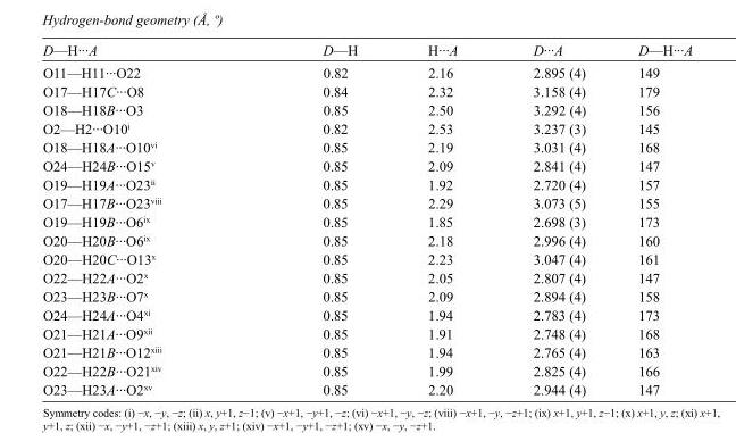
<table><tbody><tr><td>D—H···A</td><td>D—H</td><td>H···A</td><td>D···A</td><td>D—H···A</td></tr><tr><td>O11—H11···O22</td><td>0.82</td><td>2.16</td><td>2.895 (4)</td><td>149</td></tr><tr><td>O17—H17C···O8</td><td>0.84</td><td>2.32</td><td>3.158 (4)</td><td>179</td></tr><tr><td>O18—H18B···O3</td><td>0.85</td><td>2.50</td><td>3.292 (4)</td><td>156</td></tr><tr><td>O2—H2···O10<sup>i</sup></td><td>0.82</td><td>2.53</td><td>3.237 (3)</td><td>145</td></tr><tr><td>O18—H18A···O10<sup>vi</sup></td><td>0.85</td><td>2.19</td><td>3.031 (4)</td><td>168</td></tr><tr><td>O24—H24B···O15<sup>v</sup></td><td>0.85</td><td>2.09</td><td>2.841 (4)</td><td>147</td></tr><tr><td>O19—H19A···O23<sup>ii</sup></td><td>0.85</td><td>1.92</td><td>2.720 (4)</td><td>157</td></tr><tr><td>O17—H17B···O23<sup>viii</sup></td><td>0.85</td><td>2.29</td><td>3.073 (5)</td><td>155</td></tr><tr><td>O19—H19B···O6<sup>ix</sup></td><td>0.85</td><td>1.85</td><td>2.698 (3)</td><td>173</td></tr><tr><td>O20—H20B···O6<sup>ix</sup></td><td>0.85</td><td>2.18</td><td>2.996 (4)</td><td>160</td></tr><tr><td>O20—H20C···O13<sup>x</sup></td><td>0.85</td><td>2.23</td><td>3.047 (4)</td><td>161</td></tr><tr><td>O22—H22A···O2<sup>x</sup></td><td>0.85</td><td>2.05</td><td>2.807 (4)</td><td>147</td></tr><tr><td>O23—H23B···O7<sup>x</sup></td><td>0.85</td><td>2.09</td><td>2.894 (4)</td><td>158</td></tr><tr><td>O24—H24A···O4<sup>xi</sup></td><td>0.85</td><td>1.94</td><td>2.783 (4)</td><td>173</td></tr><tr><td>O21—H21A···O9<sup>xii</sup></td><td>0.85</td><td>1.91</td><td>2.748 (4)</td><td>168</td></tr><tr><td>O21—H21B···O12<sup>xiii</sup></td><td>0.85</td><td>1.94</td><td>2.765 (4)</td><td>163</td></tr><tr><td>O22—H22B···O21<sup>xiv</sup></td><td>0.85</td><td>1.99</td><td>2.825 (4)</td><td>166</td></tr><tr><td>O23—H23A···O2<sup>xv</sup></td><td>0.85</td><td>2.20</td><td>2.944 (4)</td><td>147</td></tr></tbody></table>